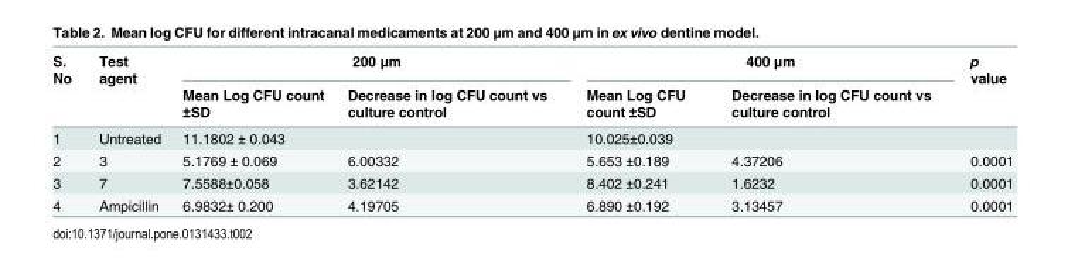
<table><thead><tr><td rowspan="2">S. No</td><td rowspan="2">Test agent</td><td colspan="2">200 μm</td><td colspan="2">400 μm</td><td rowspan="2">p value</td></tr><tr><td>Mean Log CFU count ±SD</td><td>Decrease in log CFU count vs culture control</td><td>Mean Log CFU count ±SD</td><td>Decrease in log CFU count vs culture control</td></tr></thead><tbody><tr><td>1</td><td>Untreated</td><td>11.1802 ± 0.043</td><td></td><td>10.025±0.039</td><td></td><td></td></tr><tr><td>2</td><td>3</td><td>5.1769 ± 0.069</td><td>6.00332</td><td>5.653 ±0.189</td><td>4.37206</td><td>0.0001</td></tr><tr><td>3</td><td>7</td><td>7.5588±0.058</td><td>3.62142</td><td>8.402 ±0.241</td><td>1.6232</td><td>0.0001</td></tr><tr><td>4</td><td>Ampicillin</td><td>6.9832± 0.200</td><td>4.19705</td><td>6.890 ±0.192</td><td>3.13457</td><td>0.0001</td></tr></tbody></table>